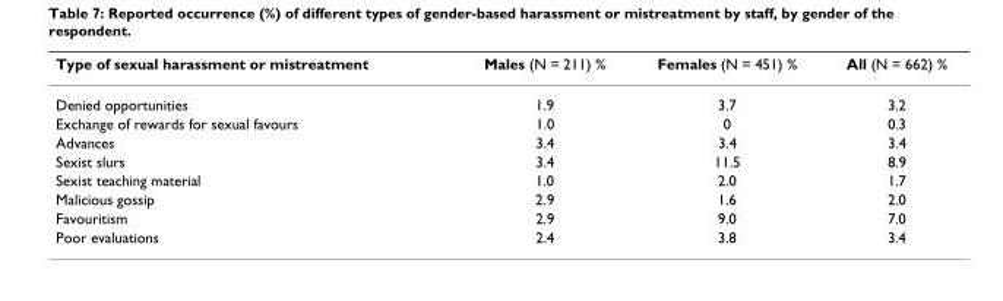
<table><thead><tr><td>Type of sexual harassment or mistreatment</td><td>Males (N = 211) %</td><td>Females (N = 451) %</td><td>All (N = 662) %</td></tr></thead><tbody><tr><td>Denied opportunities</td><td>1.9</td><td>3.7</td><td>3.2</td></tr><tr><td>Exchange of rewards for sexual favours</td><td>1.0</td><td>0</td><td>0.3</td></tr><tr><td>Advances</td><td>3.4</td><td>3.4</td><td>3.4</td></tr><tr><td>Sexist slurs</td><td>3.4</td><td>11.5</td><td>8.9</td></tr><tr><td>Sexist teaching material</td><td>1.0</td><td>2.0</td><td>1.7</td></tr><tr><td>Malicious gossip</td><td>2.9</td><td>1.6</td><td>2.0</td></tr><tr><td>Favouritism</td><td>2.9</td><td>9.0</td><td>7.0</td></tr><tr><td>Poor evaluations</td><td>2.4</td><td>3.8</td><td>3.4</td></tr></tbody></table>